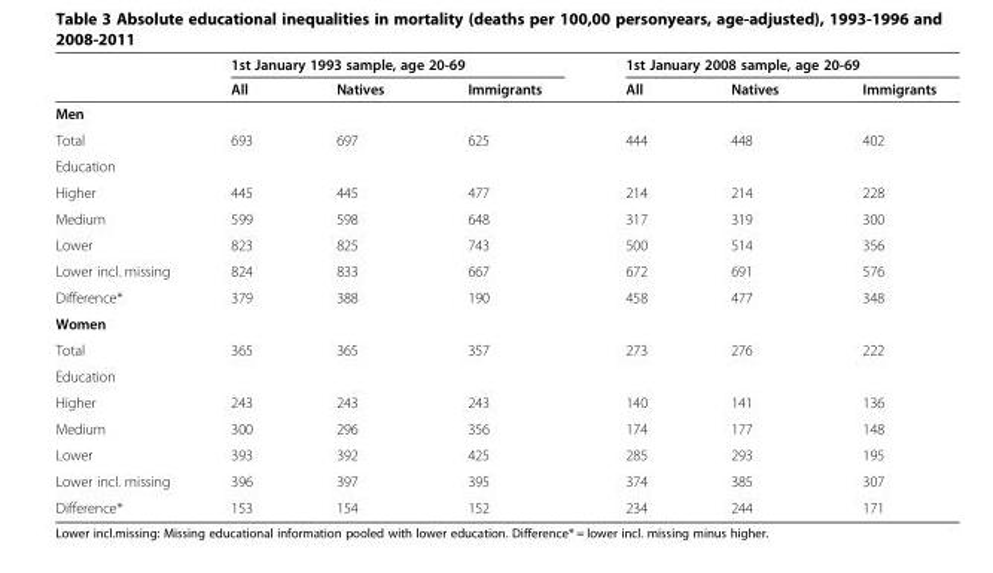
<table><thead><tr><td rowspan="2"></td><td colspan="3">1st January 1993 sample, age 20-69</td><td colspan="3">1st January 2008 sample, age 20-69</td></tr><tr><td>All</td><td>Natives</td><td>Immigrants</td><td>All</td><td>Natives</td><td>Immigrants</td></tr></thead><tbody><tr><td colspan="7">Men</td></tr><tr><td>Total</td><td>693</td><td>697</td><td>625</td><td>444</td><td>448</td><td>402</td></tr><tr><td colspan="7">Education</td></tr><tr><td>Higher</td><td>445</td><td>445</td><td>477</td><td>214</td><td>214</td><td>228</td></tr><tr><td>Medium</td><td>599</td><td>598</td><td>648</td><td>317</td><td>319</td><td>300</td></tr><tr><td>Lower</td><td>823</td><td>825</td><td>743</td><td>500</td><td>514</td><td>356</td></tr><tr><td>Lower incl. missing</td><td>824</td><td>833</td><td>667</td><td>672</td><td>691</td><td>576</td></tr><tr><td>Difference*</td><td>379</td><td>388</td><td>190</td><td>458</td><td>477</td><td>348</td></tr><tr><td colspan="7">Women</td></tr><tr><td>Total</td><td>365</td><td>365</td><td>357</td><td>273</td><td>276</td><td>222</td></tr><tr><td colspan="7">Education</td></tr><tr><td>Higher</td><td>243</td><td>243</td><td>243</td><td>140</td><td>141</td><td>136</td></tr><tr><td>Medium</td><td>300</td><td>296</td><td>356</td><td>174</td><td>177</td><td>148</td></tr><tr><td>Lower</td><td>393</td><td>392</td><td>425</td><td>285</td><td>293</td><td>195</td></tr><tr><td>Lower incl. missing</td><td>396</td><td>397</td><td>395</td><td>374</td><td>385</td><td>307</td></tr><tr><td>Difference*</td><td>153</td><td>154</td><td>152</td><td>234</td><td>244</td><td>171</td></tr></tbody></table>